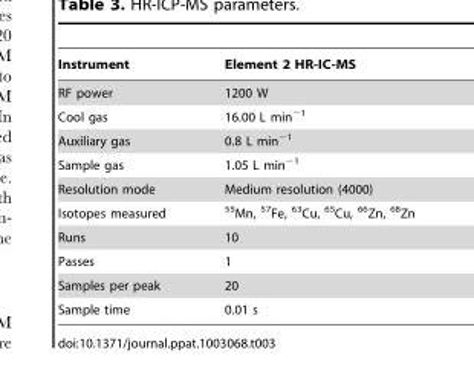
<table><thead><tr><td>Instrument</td><td>Element 2 HR-IC-MS</td></tr></thead><tbody><tr><td>RF power</td><td>1200 W</td></tr><tr><td>Cool gas</td><td>16.00 L min<sup>−1</sup></td></tr><tr><td>Auxiliary gas</td><td>0.8 L min<sup>−1</sup></td></tr><tr><td>Sample gas</td><td>1.05 L min<sup>−1</sup></td></tr><tr><td>Resolution mode</td><td>Medium resolution (4000)</td></tr><tr><td>Isotopes measured</td><td><sup>55</sup>Mn, <sup>57</sup>Fe, <sup>63</sup>Cu, <sup>65</sup>Cu, <sup>66</sup>Zn, <sup>68</sup>Zn</td></tr><tr><td>Runs</td><td>10</td></tr><tr><td>Passes</td><td>1</td></tr><tr><td>Samples per peak</td><td>20</td></tr><tr><td>Sample time</td><td>0.01 s</td></tr></tbody></table>